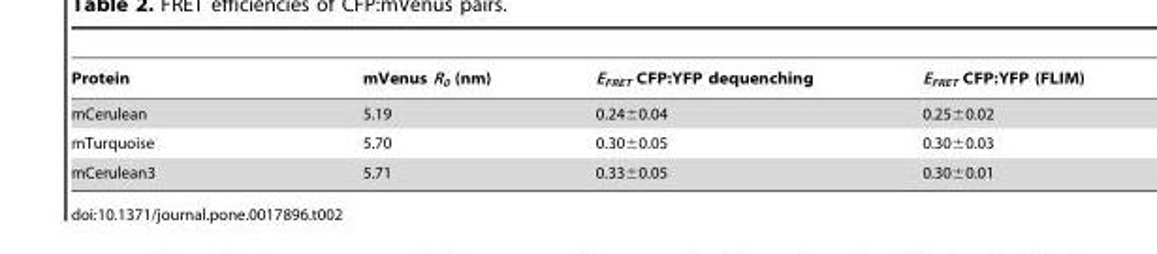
<table><thead><tr><td>Protein</td><td>mVenus R<sub>0</sub> (nm)</td><td>E<sub>FRET</sub> CFP:YFP dequenching</td><td>E<sub>FRET</sub> CFP:YFP (FLIM)</td></tr></thead><tbody><tr><td>mCerulean</td><td>5.19</td><td>0.24±0.04</td><td>0.25±0.02</td></tr><tr><td>mTurquoise</td><td>5.70</td><td>0.30±0.05</td><td>0.30±0.03</td></tr><tr><td>mCerulean3</td><td>5.71</td><td>0.33±0.05</td><td>0.30±0.01</td></tr></tbody></table>